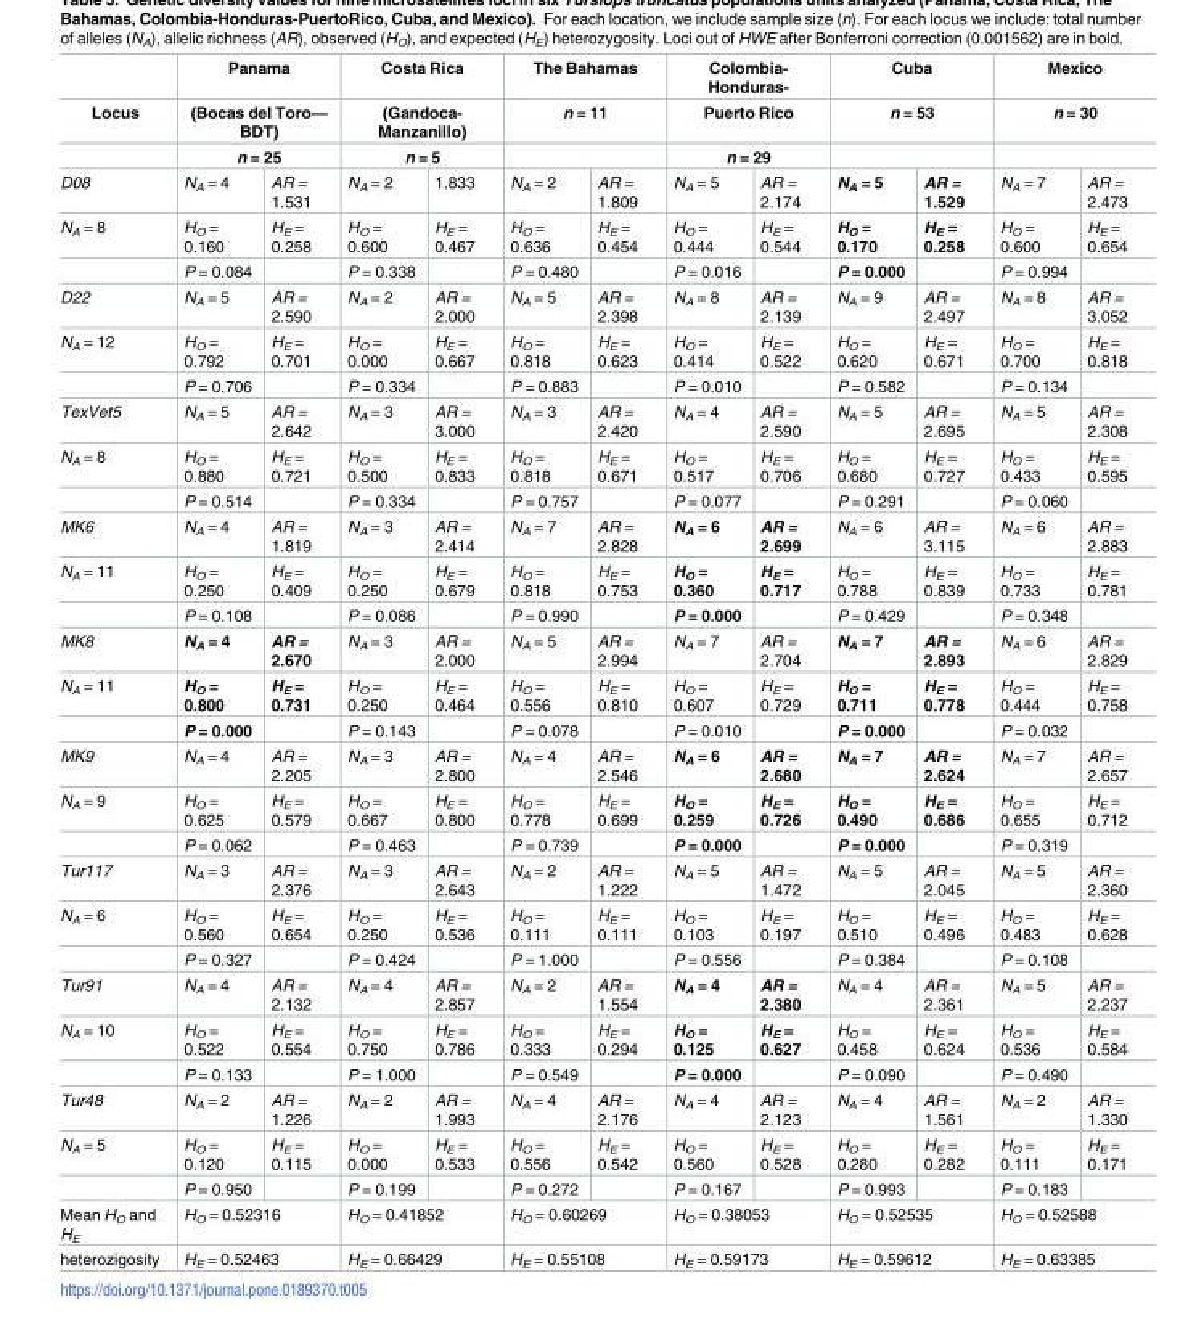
<table><thead><tr><td rowspan="4">Locus D08</td><td rowspan="3" colspan="2">Panama (Bocas del Toro— BDT) n = 25</td><td rowspan="3" colspan="2">Costa Rica (Gandoca- Manzanillo) n = 5</td><td rowspan="2" colspan="2">The Bahamas n = 11</td><td rowspan="3" colspan="2">Colombia- Honduras- Puerto Rico n = 29</td><td rowspan="2" colspan="2">Cuba n = 53</td><td rowspan="2" colspan="2">Mexico n = 30</td></tr><tr></tr><tr><td rowspan="2">N<sub>A</sub> = 2</td><td rowspan="2">AR = 1.809</td><td rowspan="2">NA = 5</td><td rowspan="2">AR = 1.529</td><td rowspan="2">N<sub>A</sub> = 7</td><td rowspan="2">AR = 2.473</td></tr><tr><td>NA = 4</td><td>AR = 1.531</td><td>N<sub>A</sub> = 2</td><td>1.833</td><td>NA = 5</td><td>AR = 2.174</td></tr></thead><tbody><tr><td rowspan="2">N<sub>A</sub> = 8</td><td>H<sub>O</sub> = 0.160</td><td>H<sub>E</sub> = 0.258</td><td>H<sub>O</sub> = 0.600</td><td>H<sub>E</sub> = 0.467</td><td>H<sub>O</sub> = 0.636</td><td>H<sub>E</sub> = 0.454</td><td>H<sub>O</sub> = 0.444</td><td>H<sub>E</sub> = 0.544</td><td>H<sub>O</sub> = 0.170</td><td>H<sub>E</sub> = 0.258</td><td>H<sub>O</sub> = 0.600</td><td>H<sub>E</sub> = 0.654</td></tr><tr><td>P = 0.084</td><td></td><td>P = 0.338</td><td></td><td>P = 0.480</td><td></td><td>P = 0.016</td><td></td><td>P = 0.000</td><td></td><td>P = 0.994</td><td></td></tr><tr><td>D22</td><td>N<sub>A</sub> = 5</td><td>AR = 2.590</td><td>N<sub>A</sub> = 2</td><td>AR = 2.000</td><td>N<sub>A</sub> = 5</td><td>AR = 2.398</td><td>N<sub>A</sub> = 8</td><td>AR = 2.139</td><td>N<sub>A</sub> = 9</td><td>AR = 2.497</td><td>N<sub>A</sub> = 8</td><td>AR = 3.052</td></tr><tr><td rowspan="2">N<sub>A</sub> = 12</td><td>H<sub>O</sub> = 0.792</td><td>H<sub>E</sub> = 0.701</td><td>H<sub>O</sub> = 0.000</td><td>H<sub>E</sub> = 0.667</td><td>H<sub>O</sub> = 0.818</td><td>H<sub>E</sub> = 0.623</td><td>H<sub>O</sub> = 0.414</td><td>H<sub>E</sub> = 0.522</td><td>H<sub>O</sub> = 0.620</td><td>H<sub>E</sub> = 0.671</td><td>H<sub>O</sub> = 0.700</td><td>H<sub>E</sub> = 0.818</td></tr><tr><td>P = 0.706</td><td></td><td>P = 0.334</td><td></td><td>P = 0.883</td><td></td><td>P = 0.010</td><td></td><td>P = 0.582</td><td></td><td>P = 0.134</td><td></td></tr><tr><td>TexVet5</td><td>N<sub>A</sub> = 5</td><td>AR = 2.642</td><td>N<sub>A</sub> = 3</td><td>AR = 3.000</td><td>N<sub>A</sub> = 3</td><td>AR = 2.420</td><td>N<sub>A</sub> = 4</td><td>AR = 2.590</td><td>N<sub>A</sub> = 5</td><td>AR = 2.695</td><td>N<sub>A</sub> = 5</td><td>AR = 2.308</td></tr><tr><td rowspan="2">N<sub>A</sub> = 8</td><td>H<sub>O</sub> = 0.880</td><td>H<sub>E</sub> = 0.721</td><td>H<sub>O</sub> = 0.500</td><td>H<sub>E</sub> = 0.833</td><td>H<sub>O</sub> = 0.818</td><td>H<sub>E</sub> = 0.671</td><td>H<sub>O</sub> = 0.517</td><td>H<sub>E</sub> = 0.706</td><td>H<sub>O</sub> = 0.680</td><td>H<sub>E</sub> = 0.727</td><td>H<sub>O</sub> = 0.433</td><td>H<sub>E</sub> = 0.595</td></tr><tr><td>P = 0.514</td><td></td><td>P = 0.334</td><td></td><td>P = 0.757</td><td></td><td>P = 0.077</td><td></td><td>P = 0.291</td><td></td><td>P = 0.060</td><td></td></tr><tr><td>MK6</td><td>N<sub>A</sub> = 4</td><td>AR = 1.819</td><td>N<sub>A</sub> = 3</td><td>AR = 2.414</td><td>N<sub>A</sub> = 7</td><td>AR = 2.828</td><td>N<sub>A</sub> = 6</td><td>AR = 2.699</td><td>N<sub>A</sub> = 6</td><td>AR = 3.115</td><td>N<sub>A</sub> = 6</td><td>AR = 2.883</td></tr><tr><td rowspan="2">N<sub>A</sub> = 11</td><td>H<sub>O</sub> = 0.250</td><td>H<sub>E</sub> = 0.409</td><td>H<sub>O</sub> = 0.250</td><td>H<sub>E</sub> = 0.679</td><td>H<sub>O</sub> = 0.818</td><td>H<sub>E</sub> = 0.753</td><td>H<sub>O</sub> = 0.360</td><td>H<sub>E</sub> = 0.717</td><td>H<sub>O</sub> = 0.788</td><td>H<sub>E</sub> = 0.839</td><td>H<sub>O</sub> = 0.733</td><td>H<sub>E</sub> = 0.781</td></tr><tr><td>P = 0.108</td><td></td><td>P = 0.086</td><td></td><td>P = 0.990</td><td></td><td>P = 0.000</td><td></td><td>P = 0.429</td><td></td><td>P = 0.348</td><td></td></tr><tr><td>MK8</td><td>N<sub>A</sub> = 4</td><td>AR = 2.670</td><td>N<sub>A</sub> = 3</td><td>AR = 2.000</td><td>N<sub>A</sub> = 5</td><td>AR = 2.994</td><td>N<sub>A</sub> = 7</td><td>AR = 2.704</td><td>N<sub>A</sub> = 7</td><td>AR = 2.893</td><td>N<sub>A</sub> = 6</td><td>AR = 2.829</td></tr><tr><td rowspan="2">N<sub>A</sub> = 11</td><td>H<sub>O</sub> = 0.800</td><td>H<sub>E</sub> = 0.731</td><td>H<sub>O</sub> = 0.250</td><td>H<sub>E</sub> = 0.464</td><td>H<sub>O</sub> = 0.556</td><td>H<sub>E</sub> = 0.810</td><td>H<sub>O</sub> = 0.607</td><td>H<sub>E</sub> = 0.729</td><td>H<sub>O</sub> = 0.711</td><td>H<sub>E</sub> = 0.778</td><td>H<sub>O</sub> = 0.444</td><td>H<sub>E</sub> = 0.758</td></tr><tr><td>P = 0.000</td><td></td><td>P = 0.143</td><td></td><td>P = 0.078</td><td></td><td>P = 0.010</td><td></td><td>P = 0.000</td><td></td><td>P = 0.032</td><td></td></tr><tr><td>MK9</td><td>N<sub>A</sub> = 4</td><td>AR = 2.205</td><td>N<sub>A</sub> = 3</td><td>AR = 2.800</td><td>N<sub>A</sub> = 4</td><td>AR = 2.546</td><td>N<sub>A</sub> = 6</td><td>AR = 2.680</td><td>N<sub>A</sub> = 7</td><td>AR = 2.624</td><td>N<sub>A</sub> = 7</td><td>AR = 2.657</td></tr><tr><td rowspan="2">N<sub>A</sub> = 9</td><td>H<sub>O</sub> = 0.625</td><td>H<sub>E</sub> = 0.579</td><td>H<sub>O</sub> = 0.667</td><td>H<sub>E</sub> = 0.800</td><td>H<sub>O</sub> = 0.778</td><td>H<sub>E</sub> = 0.699</td><td>H<sub>O</sub> = 0.259</td><td>H<sub>E</sub> = 0.726</td><td>H<sub>O</sub> = 0.490</td><td>H<sub>E</sub> = 0.686</td><td>H<sub>O</sub> = 0.655</td><td>H<sub>E</sub> = 0.712</td></tr><tr><td>P = 0.062</td><td></td><td>P = 0.463</td><td></td><td>P = 0.739</td><td></td><td>P = 0.000</td><td></td><td>P = 0.000</td><td></td><td>P = 0.319</td><td></td></tr><tr><td>Tur117</td><td>N<sub>A</sub> = 3</td><td>AR = 2.376</td><td>N<sub>A</sub> = 3</td><td>AR = 2.643</td><td>N<sub>A</sub> = 2</td><td>AR = 1.222</td><td>N<sub>A</sub> = 5</td><td>AR = 1.472</td><td>N<sub>A</sub> = 5</td><td>AR = 2.045</td><td>N<sub>A</sub> = 5</td><td>AR = 2.360</td></tr><tr><td rowspan="2">N<sub>A</sub> = 6</td><td>H<sub>O</sub> = 0.560</td><td>H<sub>E</sub> = 0.654</td><td>H<sub>O</sub> = 0.250</td><td>H<sub>E</sub> = 0.536</td><td>H<sub>O</sub> = 0.111</td><td>H<sub>E</sub> = 0.111</td><td>H<sub>O</sub> = 0.103</td><td>H<sub>E</sub> = 0.197</td><td>H<sub>O</sub> = 0.510</td><td>H<sub>E</sub> = 0.496</td><td>H<sub>O</sub> = 0.483</td><td>H<sub>E</sub> = 0.628</td></tr><tr><td>P = 0.327</td><td></td><td>P = 0.424</td><td></td><td>P = 1.000</td><td></td><td>P = 0.556</td><td></td><td>P = 0.384</td><td></td><td>P = 0.108</td><td></td></tr><tr><td>Tur91</td><td>N<sub>A</sub> = 4</td><td>AR = 2.132</td><td>N<sub>A</sub> = 4</td><td>AR = 2.857</td><td>N<sub>A</sub> = 2</td><td>AR = 1.554</td><td>N<sub>A</sub> = 4</td><td>AR = 2.380</td><td>N<sub>A</sub> = 4</td><td>AR = 2.361</td><td>N<sub>A</sub> = 5</td><td>AR = 2.237</td></tr><tr><td rowspan="2">N<sub>A</sub> = 10</td><td>H<sub>O</sub> = 0.522</td><td>H<sub>E</sub> = 0.554</td><td>H<sub>O</sub> = 0.750</td><td>H<sub>E</sub> = 0.786</td><td>H<sub>O</sub> = 0.333</td><td>H<sub>E</sub> = 0.294</td><td>H<sub>O</sub> = 0.125</td><td>H<sub>E</sub> = 0.627</td><td>H<sub>O</sub> = 0.458</td><td>H<sub>E</sub> = 0.624</td><td>H<sub>O</sub> = 0.536</td><td>H<sub>E</sub> = 0.584</td></tr><tr><td>P = 0.133</td><td></td><td>P = 1.000</td><td></td><td>P = 0.549</td><td></td><td>P = 0.000</td><td></td><td>P = 0.090</td><td></td><td>P = 0.490</td><td></td></tr><tr><td>Tur48</td><td>N<sub>A</sub> = 2</td><td>AR = 1.226</td><td>N<sub>A</sub> = 2</td><td>AR = 1.993</td><td>N<sub>A</sub> = 4</td><td>AR = 2.176</td><td>N<sub>A</sub> = 4</td><td>AR = 2.123</td><td>N<sub>A</sub> = 4</td><td>AR = 1.561</td><td>N<sub>A</sub> = 2</td><td>AR = 1.330</td></tr><tr><td rowspan="2">N<sub>A</sub> = 5</td><td>H<sub>O</sub> = 0.120</td><td>H<sub>E</sub> = 0.115</td><td>H<sub>O</sub> = 0.000</td><td>H<sub>E</sub> = 0.533</td><td>H<sub>O</sub> = 0.556</td><td>H<sub>E</sub> = 0.542</td><td>H<sub>O</sub> = 0.560</td><td>H<sub>E</sub> = 0.528</td><td>H<sub>O</sub> = 0.280</td><td>H<sub>E</sub> = 0.282</td><td>H<sub>O</sub> = 0.111</td><td>H<sub>E</sub> = 0.171</td></tr><tr><td>P = 0.950</td><td></td><td>P = 0.199</td><td></td><td>P = 0.272</td><td></td><td>P = 0.167</td><td></td><td>P = 0.993</td><td></td><td>P = 0.183</td><td></td></tr><tr><td>Mean H<sub>O</sub> and H<sub>E</sub></td><td colspan="2">H<sub>O</sub> = 0.52316</td><td colspan="2">H<sub>O</sub> = 0.41852</td><td colspan="2">H<sub>O</sub> = 0.60269</td><td colspan="2">H<sub>O</sub> = 0.38053</td><td colspan="2">H<sub>O</sub> = 0.52535</td><td colspan="2">H<sub>O</sub> = 0.52588</td></tr><tr><td>heterozigosity</td><td colspan="2">H<sub>E</sub> = 0.52463</td><td colspan="2">H<sub>E</sub> = 0.66429</td><td colspan="2">H<sub>E</sub> = 0.55108</td><td colspan="2">H<sub>E</sub> = 0.59173</td><td colspan="2">H<sub>E</sub> = 0.59612</td><td colspan="2">H<sub>E</sub> = 0.63385</td></tr></tbody></table>